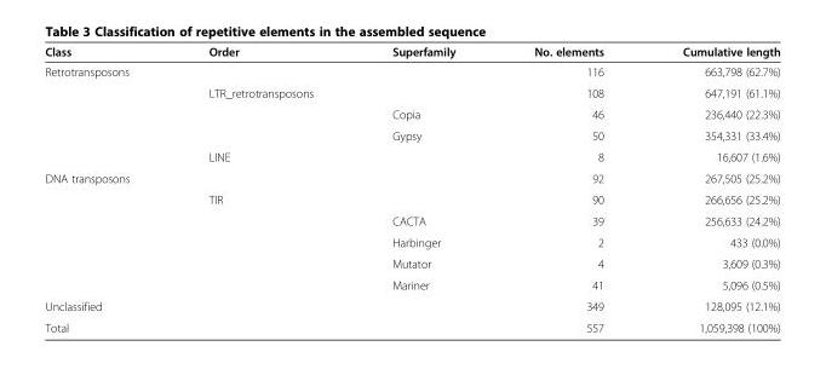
<table><thead><tr><td>Class</td><td>Order</td><td>Superfamily</td><td>No. elements</td><td>Cumulative length</td></tr></thead><tbody><tr><td rowspan="5">Retrotransposons</td><td></td><td></td><td>116</td><td>663,798 (62.7%)</td></tr><tr><td>LTR_retrotransposons</td><td></td><td>108</td><td>647,191 (61.1%)</td></tr><tr><td></td><td>Copia</td><td>46</td><td>236,440 (22.3%)</td></tr><tr><td></td><td>Gypsy</td><td>50</td><td>354,331 (33.4%)</td></tr><tr><td>LINE</td><td></td><td>8</td><td>16,607 (1.6%)</td></tr><tr><td rowspan="6">DNA transposons</td><td></td><td></td><td>92</td><td>267,505 (25.2%)</td></tr><tr><td>TIR</td><td></td><td>90</td><td>266,656 (25.2%)</td></tr><tr><td></td><td>CACTA</td><td>39</td><td>256,633 (24.2%)</td></tr><tr><td></td><td>Harbinger</td><td>2</td><td>433 (0.0%)</td></tr><tr><td></td><td>Mutator</td><td>4</td><td>3,609 (0.3%)</td></tr><tr><td></td><td>Mariner</td><td>41</td><td>5,096 (0.5%)</td></tr><tr><td>Unclassified</td><td></td><td></td><td>349</td><td>128,095 (12.1%)</td></tr><tr><td>Total</td><td></td><td></td><td>557</td><td>1,059,398 (100%)</td></tr></tbody></table>